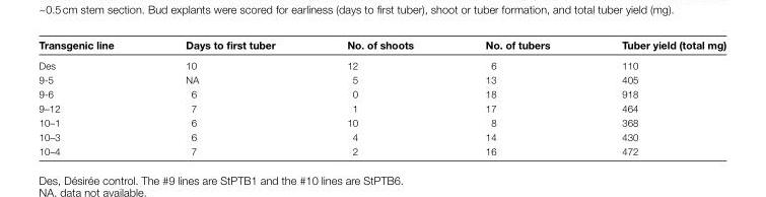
<table><thead><tr><td>Transgenic line</td><td>Days to first tuber</td><td>No. of shoots</td><td>No. of tubers</td><td>Tuber yield (total mg)</td></tr></thead><tbody><tr><td>Des</td><td>10</td><td>12</td><td>6</td><td>110</td></tr><tr><td>9-5</td><td>NA</td><td>5</td><td>13</td><td>405</td></tr><tr><td>9-6</td><td>6</td><td>0</td><td>18</td><td>918</td></tr><tr><td>9–12</td><td>7</td><td>1</td><td>17</td><td>464</td></tr><tr><td>10–1</td><td>6</td><td>10</td><td>8</td><td>368</td></tr><tr><td>10–3</td><td>6</td><td>4</td><td>14</td><td>430</td></tr><tr><td>10–4</td><td>7</td><td>2</td><td>16</td><td>472</td></tr></tbody></table>